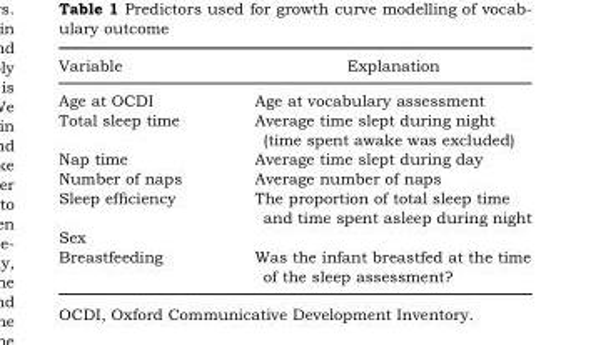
<table><thead><tr><td>Variable</td><td>Explanation</td></tr></thead><tbody><tr><td>Age at OCDI</td><td>Age at vocabulary assessment</td></tr><tr><td>Total sleep time</td><td>Average time slept during night (time spent awake was excluded)</td></tr><tr><td>Nap time</td><td>Average time slept during day</td></tr><tr><td>Number of naps</td><td>Average number of naps</td></tr><tr><td>Sleep efficiency</td><td>The proportion of total sleep time and time spent asleep during night</td></tr><tr><td colspan="2">Sex</td></tr><tr><td>Breastfeeding</td><td>Was the infant breastfed at the time of the sleep assessment?</td></tr></tbody></table>